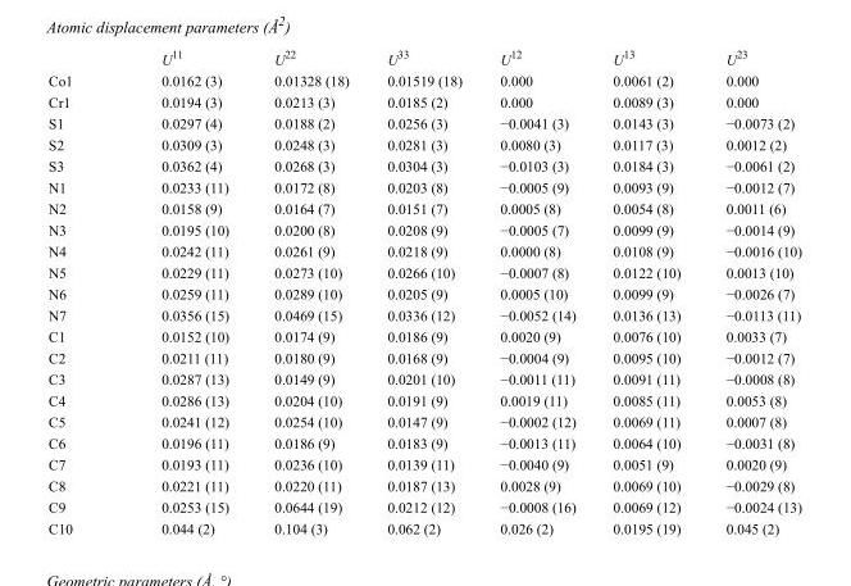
<table><thead><tr><td></td><td>U<sup>11</sup></td><td>U<sup>22</sup></td><td>U<sup>33</sup></td><td>U<sup>12</sup></td><td>U<sup>13</sup></td><td>U<sup>23</sup></td></tr></thead><tbody><tr><td>Co1</td><td>0.0162 (3)</td><td>0.01328 (18)</td><td>0.01519 (18)</td><td>0.000</td><td>0.0061 (2)</td><td>0.000</td></tr><tr><td>Cr1</td><td>0.0194 (3)</td><td>0.0213 (3)</td><td>0.0185 (2)</td><td>0.000</td><td>0.0089 (3)</td><td>0.000</td></tr><tr><td>S1</td><td>0.0297 (4)</td><td>0.0188 (2)</td><td>0.0256 (3)</td><td>−0.0041 (3)</td><td>0.0143 (3)</td><td>−0.0073 (2)</td></tr><tr><td>S2</td><td>0.0309 (3)</td><td>0.0248 (3)</td><td>0.0281 (3)</td><td>0.0080 (3)</td><td>0.0117 (3)</td><td>0.0012 (2)</td></tr><tr><td>S3</td><td>0.0362 (4)</td><td>0.0268 (3)</td><td>0.0304 (3)</td><td>−0.0103 (3)</td><td>0.0184 (3)</td><td>−0.0061 (2)</td></tr><tr><td>N1</td><td>0.0233 (11)</td><td>0.0172 (8)</td><td>0.0203 (8)</td><td>−0.0005 (9)</td><td>0.0093 (9)</td><td>−0.0012 (7)</td></tr><tr><td>N2</td><td>0.0158 (9)</td><td>0.0164 (7)</td><td>0.0151 (7)</td><td>0.0005 (8)</td><td>0.0054 (8)</td><td>0.0011 (6)</td></tr><tr><td>N3</td><td>0.0195 (10)</td><td>0.0200 (8)</td><td>0.0208 (9)</td><td>−0.0005 (7)</td><td>0.0099 (9)</td><td>−0.0014 (9)</td></tr><tr><td>N4</td><td>0.0242 (11)</td><td>0.0261 (9)</td><td>0.0218 (9)</td><td>0.0000 (8)</td><td>0.0108 (9)</td><td>−0.0016 (10)</td></tr><tr><td>N5</td><td>0.0229 (11)</td><td>0.0273 (10)</td><td>0.0266 (10)</td><td>−0.0007 (8)</td><td>0.0122 (10)</td><td>0.0013 (10)</td></tr><tr><td>N6</td><td>0.0259 (11)</td><td>0.0289 (10)</td><td>0.0205 (9)</td><td>0.0005 (10)</td><td>0.0099 (9)</td><td>−0.0026 (7)</td></tr><tr><td>N7</td><td>0.0356 (15)</td><td>0.0469 (15)</td><td>0.0336 (12)</td><td>−0.0052 (14)</td><td>0.0136 (13)</td><td>−0.0113 (11)</td></tr><tr><td>C1</td><td>0.0152 (10)</td><td>0.0174 (9)</td><td>0.0186 (9)</td><td>0.0020 (9)</td><td>0.0076 (10)</td><td>0.0033 (7)</td></tr><tr><td>C2</td><td>0.0211 (11)</td><td>0.0180 (9)</td><td>0.0168 (9)</td><td>−0.0004 (9)</td><td>0.0095 (10)</td><td>−0.0012 (7)</td></tr><tr><td>C3</td><td>0.0287 (13)</td><td>0.0149 (9)</td><td>0.0201 (10)</td><td>−0.0011 (11)</td><td>0.0091 (11)</td><td>−0.0008 (8)</td></tr><tr><td>C4</td><td>0.0286 (13)</td><td>0.0204 (10)</td><td>0.0191 (9)</td><td>0.0019 (11)</td><td>0.0085 (11)</td><td>0.0053 (8)</td></tr><tr><td>C5</td><td>0.0241 (12)</td><td>0.0254 (10)</td><td>0.0147 (9)</td><td>−0.0002 (12)</td><td>0.0069 (11)</td><td>0.0007 (8)</td></tr><tr><td>C6</td><td>0.0196 (11)</td><td>0.0186 (9)</td><td>0.0183 (9)</td><td>−0.0013 (11)</td><td>0.0064 (10)</td><td>−0.0031 (8)</td></tr><tr><td>C7</td><td>0.0193 (11)</td><td>0.0236 (10)</td><td>0.0139 (11)</td><td>−0.0040 (9)</td><td>0.0051 (9)</td><td>0.0020 (9)</td></tr><tr><td>C8</td><td>0.0221 (11)</td><td>0.0220 (11)</td><td>0.0187 (13)</td><td>0.0028 (9)</td><td>0.0069 (10)</td><td>−0.0029 (8)</td></tr><tr><td>C9</td><td>0.0253 (15)</td><td>0.0644 (19)</td><td>0.0212 (12)</td><td>−0.0008 (16)</td><td>0.0069 (12)</td><td>−0.0024 (13)</td></tr><tr><td>C10</td><td>0.044 (2)</td><td>0.104 (3)</td><td>0.062 (2)</td><td>0.026 (2)</td><td>0.0195 (19)</td><td>0.045 (2)</td></tr></tbody></table>